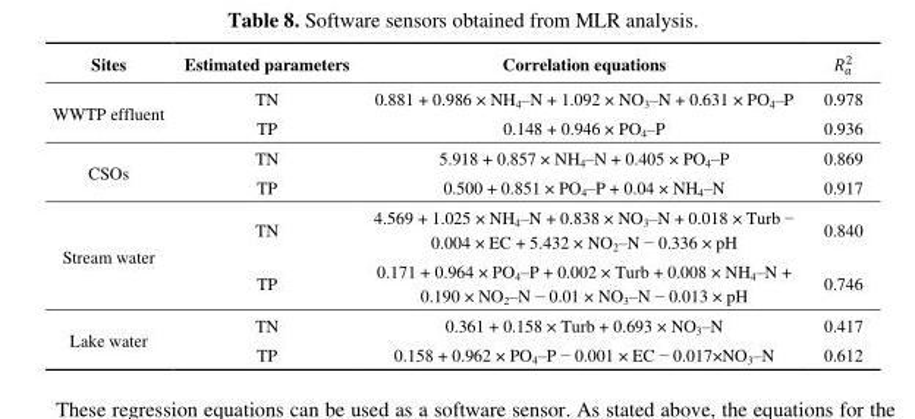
<table><thead><tr><td>Sites</td><td>Estimated parameters</td><td>Correlation equations</td><td>𝑅<sub>𝑎</sub> <sup>2</sup></td></tr></thead><tbody><tr><td rowspan="2">WWTP effluent</td><td>TN</td><td>0.881 + 0.986 × NH<sub>4</sub>–N + 1.092 × NO<sub>3</sub>–N + 0.631 × PO<sub>4</sub>–P</td><td>0.978</td></tr><tr><td>TP</td><td>0.148 + 0.946 × PO<sub>4</sub>–P</td><td>0.936</td></tr><tr><td rowspan="2">CSOs</td><td>TN</td><td>5.918 + 0.857 × NH<sub>4</sub>–N + 0.405 × PO<sub>4</sub>–P</td><td>0.869</td></tr><tr><td>TP</td><td>0.500 + 0.851 × PO<sub>4</sub>–P + 0.04 × NH<sub>4</sub>–N</td><td>0.917</td></tr><tr><td rowspan="2">Stream water</td><td>TN</td><td>4.569 + 1.025 × NH<sub>4</sub>–N + 0.838 × NO<sub>3</sub>–N + 0.018 × Turb − 0.004 × EC + 5.432 × NO<sub>2</sub>–N − 0.336 × pH</td><td>0.840</td></tr><tr><td>TP</td><td>0.171 + 0.964 × PO<sub>4</sub>–P + 0.002 × Turb + 0.008 × NH<sub>4</sub>–N + 0.190 × NO<sub>2</sub>–N − 0.01 × NO<sub>3</sub>–N − 0.013 × pH</td><td>0.746</td></tr><tr><td rowspan="2">Lake water</td><td>TN</td><td>0.361 + 0.158 × Turb + 0.693 × NO<sub>3</sub>–N</td><td>0.417</td></tr><tr><td>TP</td><td>0.158 + 0.962 × PO<sub>4</sub>–P − 0.001 × EC − 0.017×NO<sub>3</sub>–N</td><td>0.612</td></tr></tbody></table>